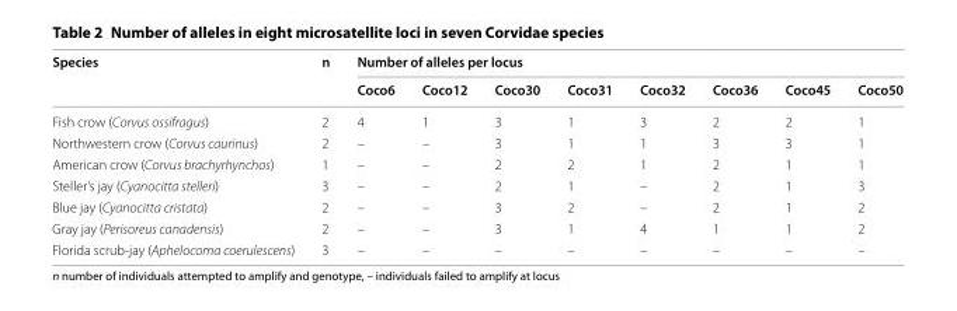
<table><thead><tr><td rowspan="2">Species</td><td rowspan="2">n</td><td colspan="8">Number of alleles per locus</td></tr><tr><td>Coco6</td><td>Coco12</td><td>Coco30</td><td>Coco31</td><td>Coco32</td><td>Coco36</td><td>Coco45</td><td>Coco50</td></tr></thead><tbody><tr><td>Fish crow (Corvus ossifragus)</td><td>2</td><td>4</td><td>1</td><td>3</td><td>1</td><td>3</td><td>2</td><td>2</td><td>1</td></tr><tr><td>Northwestern crow (Corvus caurinus)</td><td>2</td><td>–</td><td>–</td><td>3</td><td>1</td><td>1</td><td>3</td><td>3</td><td>1</td></tr><tr><td>American crow (Corvus brachyrhynchos)</td><td>1</td><td>–</td><td>–</td><td>2</td><td>2</td><td>1</td><td>2</td><td>1</td><td>1</td></tr><tr><td>Steller’s jay (Cyanocitta stelleri)</td><td>3</td><td>–</td><td>–</td><td>2</td><td>1</td><td>–</td><td>2</td><td>1</td><td>3</td></tr><tr><td>Blue jay (Cyanocitta cristata)</td><td>2</td><td>–</td><td>–</td><td>3</td><td>2</td><td>–</td><td>2</td><td>1</td><td>2</td></tr><tr><td>Gray jay (Perisoreus canadensis)</td><td>2</td><td>–</td><td>–</td><td>3</td><td>1</td><td>4</td><td>1</td><td>1</td><td>2</td></tr><tr><td>Florida scrub-jay (Aphelocoma coerulescens)</td><td>3</td><td>–</td><td>–</td><td>–</td><td>–</td><td>–</td><td>–</td><td>–</td><td>–</td></tr></tbody></table>